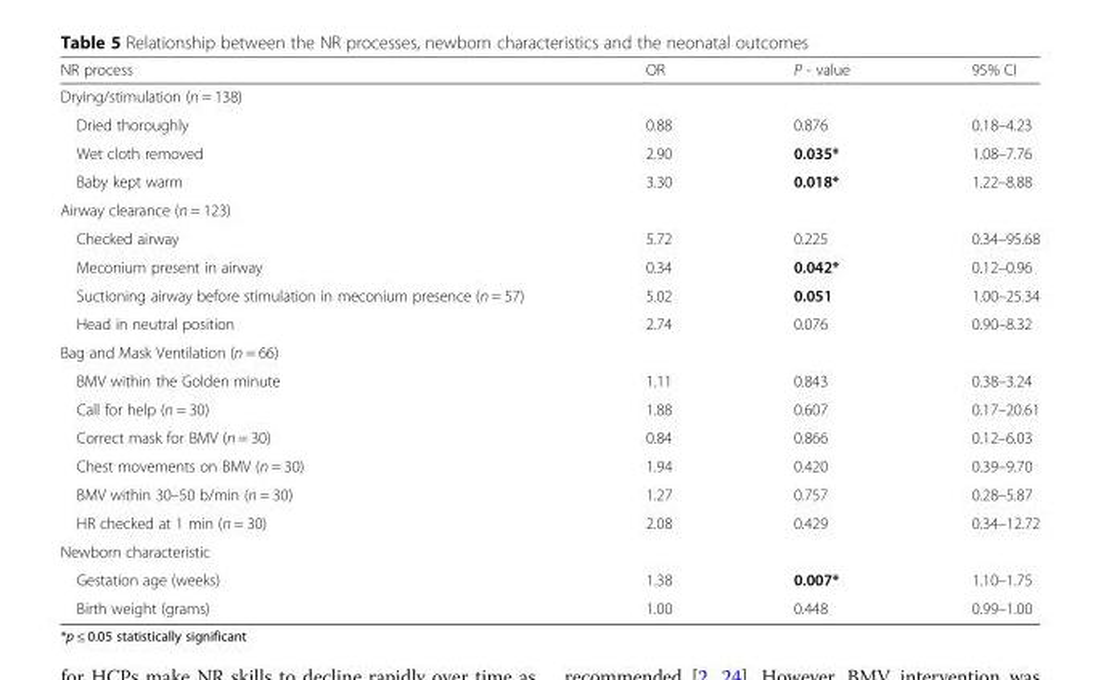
<table><thead><tr><td>NR process</td><td>OR</td><td>P - value</td><td>95% CI</td></tr></thead><tbody><tr><td colspan="4">Drying/stimulation (n = 138)</td></tr><tr><td>Dried thoroughly</td><td>0.88</td><td>0.876</td><td>0.18–4.23</td></tr><tr><td>Wet cloth removed</td><td>2.90</td><td>0.035*</td><td>1.08–7.76</td></tr><tr><td>Baby kept warm</td><td>3.30</td><td>0.018*</td><td>1.22–8.88</td></tr><tr><td colspan="4">Airway clearance (n = 123)</td></tr><tr><td>Checked airway</td><td>5.72</td><td>0.225</td><td>0.34–95.68</td></tr><tr><td>Meconium present in airway</td><td>0.34</td><td>0.042*</td><td>0.12–0.96</td></tr><tr><td>Suctioning airway before stimulation in meconium presence (n = 57)</td><td>5.02</td><td>0.051</td><td>1.00–25.34</td></tr><tr><td>Head in neutral position</td><td>2.74</td><td>0.076</td><td>0.90–8.32</td></tr><tr><td colspan="4">Bag and Mask Ventilation (n = 66)</td></tr><tr><td>BMV within the Golden minute</td><td>1.11</td><td>0.843</td><td>0.38–3.24</td></tr><tr><td>Call for help (n = 30)</td><td>1.88</td><td>0.607</td><td>0.17–20.61</td></tr><tr><td>Correct mask for BMV (n = 30)</td><td>0.84</td><td>0.866</td><td>0.12–6.03</td></tr><tr><td>Chest movements on BMV (n = 30)</td><td>1.94</td><td>0.420</td><td>0.39–9.70</td></tr><tr><td>BMV within 30–50 b/min (n = 30)</td><td>1.27</td><td>0.757</td><td>0.28–5.87</td></tr><tr><td>HR checked at 1 min (n = 30)</td><td>2.08</td><td>0.429</td><td>0.34–12.72</td></tr><tr><td colspan="4">Newborn characteristic</td></tr><tr><td>Gestation age (weeks)</td><td>1.38</td><td>0.007*</td><td>1.10–1.75</td></tr><tr><td>Birth weight (grams)</td><td>1.00</td><td>0.448</td><td>0.99–1.00</td></tr></tbody></table>